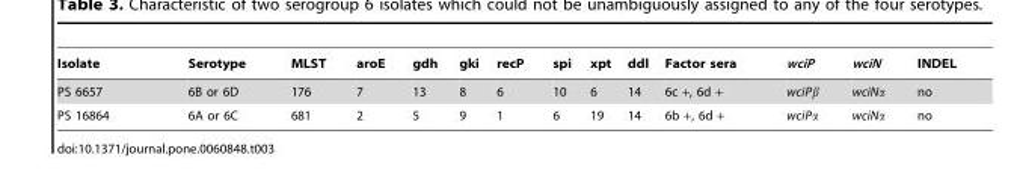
<table><thead><tr><td>Isolate</td><td>Serotype</td><td>MLST</td><td>aroE</td><td>gdh</td><td>gki</td><td>recP</td><td>spi</td><td>xpt</td><td>ddl</td><td>Factor sera</td><td>wciP</td><td>wciN</td><td>INDEL</td></tr></thead><tbody><tr><td>PS 6657</td><td>6B or 6D</td><td>176</td><td>7</td><td>13</td><td>8</td><td>6</td><td>10</td><td>6</td><td>14</td><td>6c +, 6d +</td><td>wciPβ</td><td>wciNα</td><td>no</td></tr><tr><td>PS 16864</td><td>6A or 6C</td><td>681</td><td>2</td><td>5</td><td>9</td><td>1</td><td>6</td><td>19</td><td>14</td><td>6b +, 6d +</td><td>wciPα</td><td>wciNα</td><td>no</td></tr></tbody></table>